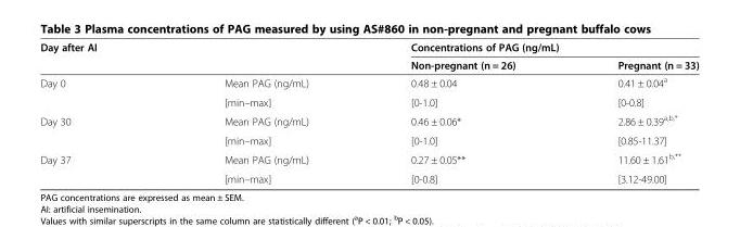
<table><thead><tr><td rowspan="2">Day after AI</td><td rowspan="2"></td><td colspan="2">Concentrations of PAG (ng/mL)</td></tr><tr><td>Non-pregnant (n = 26)</td><td>Pregnant (n = 33)</td></tr></thead><tbody><tr><td rowspan="2">Day 0</td><td>Mean PAG (ng/mL)</td><td>0.48 ± 0.04</td><td>0.41 ± 0.04<sup>a</sup></td></tr><tr><td>[min–max]</td><td>[0-1.0]</td><td>[0-0.8]</td></tr><tr><td rowspan="2">Day 30</td><td>Mean PAG (ng/mL)</td><td>0.46 ± 0.06*</td><td>2.86 ± 0.39<sup>a,b,*</sup></td></tr><tr><td>[min–max]</td><td>[0-1.0]</td><td>[0.85-11.37]</td></tr><tr><td rowspan="2">Day 37</td><td>Mean PAG (ng/mL)</td><td>0.27 ± 0.05**</td><td>11.60 ± 1.61<sup>b,**</sup></td></tr><tr><td>[min–max]</td><td>[0-0.8]</td><td>[3.12-49.00]</td></tr></tbody></table>